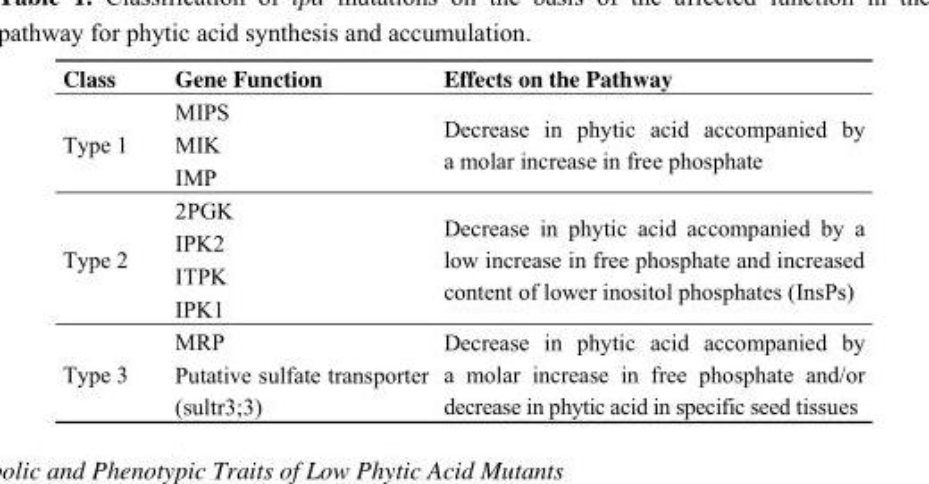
<table><thead><tr><td>Class</td><td>Gene Function</td><td>Effects on the Pathway</td></tr></thead><tbody><tr><td rowspan="3">Type 1</td><td>MIPS</td><td rowspan="3">Decrease in phytic acid accompanied by a molar increase in free phosphate</td></tr><tr><td>MIK</td></tr><tr><td>IMP</td></tr><tr><td rowspan="4">Type 2</td><td>2PGK</td><td rowspan="4">Decrease in phytic acid accompanied by a low increase in free phosphate and increased content of lower inositol phosphates (InsPs)</td></tr><tr><td>IPK2</td></tr><tr><td>ITPK</td></tr><tr><td>IPK1</td></tr><tr><td rowspan="2">Type 3</td><td>MRP</td><td rowspan="2">Decrease in phytic acid accompanied by a molar increase in free phosphate and/or decrease in phytic acid in specific seed tissues</td></tr><tr><td>Putative sulfate transporter (sultr3;3)</td></tr></tbody></table>